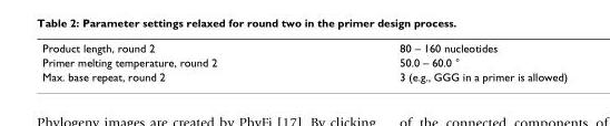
<table><tbody><tr><td>Product length, round 2</td><td>80 – 160 nucleotides</td></tr><tr><td>Primer melting temperature, round 2</td><td>50.0 – 60.0 °</td></tr><tr><td>Max. base repeat, round 2</td><td>3 (e.g., GGG in a primer is allowed)</td></tr></tbody></table>